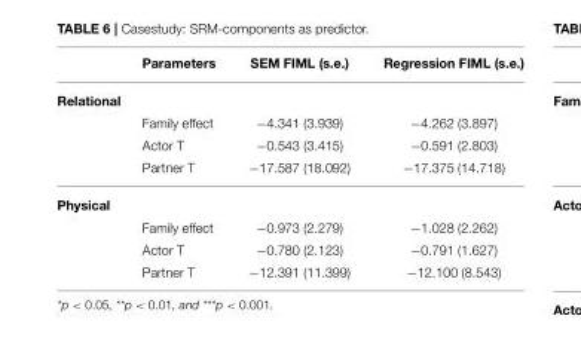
<table><thead><tr><td></td><td>Parameters</td><td>SEM FIML (s.e.)</td><td>Regression FIML (s.e.)</td></tr></thead><tbody><tr><td colspan="4">Relational</td></tr><tr><td></td><td>Family effect</td><td>−4.341 (3.939)</td><td>−4.262 (3.897)</td></tr><tr><td></td><td>Actor T</td><td>−0.543 (3.415)</td><td>−0.591 (2.803)</td></tr><tr><td></td><td>Partner T</td><td>−17.587 (18.092)</td><td>−17.375 (14.718)</td></tr><tr><td colspan="4">Physical</td></tr><tr><td></td><td>Family effect</td><td>−0.973 (2.279)</td><td>−1.028 (2.262)</td></tr><tr><td></td><td>Actor T</td><td>−0.780 (2.123)</td><td>−0.791 (1.627)</td></tr><tr><td></td><td>Partner T</td><td>−12.391 (11.399)</td><td>−12.100 (8.543)</td></tr></tbody></table>